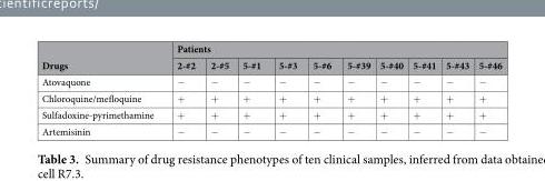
<table><thead><tr><td rowspan="2">Drugs</td><td colspan="10">Patients</td></tr><tr><td>2-#2</td><td>2-#5</td><td>5-#1</td><td>5-#3</td><td>5-#6</td><td>5-#39</td><td>5-#40</td><td>5-#41</td><td>5-#43</td><td>5-#46</td></tr></thead><tbody><tr><td>Atovaquone</td><td>−</td><td>−</td><td>−</td><td>−</td><td>−</td><td>−</td><td>−</td><td>−</td><td>−</td><td>−</td></tr><tr><td>Chloroquine/mefloquine</td><td>+</td><td>+</td><td>+</td><td>+</td><td>+</td><td>+</td><td>+</td><td>+</td><td>+</td><td>+</td></tr><tr><td>Sulfadoxine-pyrimethamine</td><td>+</td><td>+</td><td>+</td><td>+</td><td>+</td><td>+</td><td>+</td><td>+</td><td>+</td><td>+</td></tr><tr><td>Artemisinin</td><td>−</td><td>−</td><td>−</td><td>−</td><td>−</td><td>−</td><td>−</td><td>−</td><td>−</td><td>−</td></tr></tbody></table>